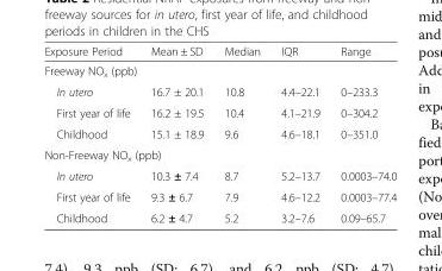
<table><thead><tr><td>Exposure Period</td><td>Mean ± SD</td><td>Median</td><td>IQR</td><td>Range</td></tr></thead><tbody><tr><td colspan="5">Freeway NO<sub>x</sub> (ppb)</td></tr><tr><td>In utero</td><td>16.7 ± 20.1</td><td>10.8</td><td>4.4–22.1</td><td>0–233.3</td></tr><tr><td>First year of life</td><td>16.2 ± 19.5</td><td>10.4</td><td>4.1–21.9</td><td>0–304.2</td></tr><tr><td>Childhood</td><td>15.1 ± 18.9</td><td>9.6</td><td>4.6–18.1</td><td>0–351.0</td></tr><tr><td colspan="5">Non-Freeway NO<sub>x</sub> (ppb)</td></tr><tr><td>In utero</td><td>10.3 ± 7.4</td><td>8.7</td><td>5.2–13.7</td><td>0.0003–74.0</td></tr><tr><td>First year of life</td><td>9.3 ± 6.7</td><td>7.9</td><td>4.6–12.2</td><td>0.0003–77.4</td></tr><tr><td>Childhood</td><td>6.2 ± 4.7</td><td>5.2</td><td>3.2–7.6</td><td>0.09–65.7</td></tr></tbody></table>